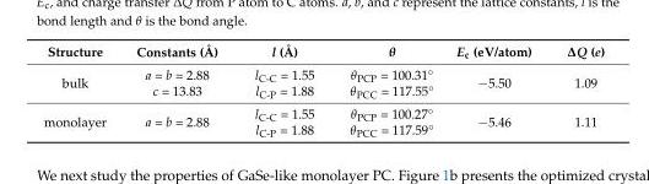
<table><thead><tr><td>Structure</td><td>Constants (Å)</td><td>l (Å)</td><td>θ</td><td>E<sub>c</sub> (eV/atom)</td><td>∆Q (e)</td></tr></thead><tbody><tr><td>bulk</td><td>a = b = 2.88 c = 13.83</td><td>l<sub>C-C</sub> = 1.55 l<sub>C-P</sub> = 1.88</td><td>θPCP = 100.31◦ θPCC = 117.55◦</td><td>−5.50</td><td>1.09</td></tr><tr><td>monolayer</td><td>a = b = 2.88</td><td>l<sub>C-C</sub> = 1.55 l<sub>C-P</sub> = 1.88</td><td>θPCP = 100.27◦ θPCC = 117.59◦</td><td>−5.46</td><td>1.11</td></tr></tbody></table>